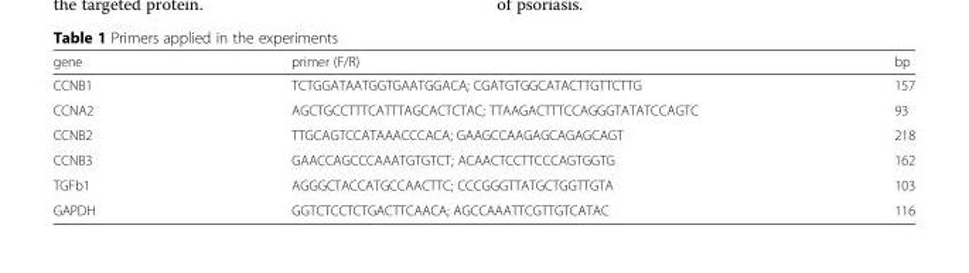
<table><thead><tr><td>gene</td><td>primer (F/R)</td><td>bp</td></tr></thead><tbody><tr><td>CCNB1</td><td>TCTGGATAATGGTGAATGGACA; CGATGTGGCATACTTGTTCTTG</td><td>157</td></tr><tr><td>CCNA2</td><td>AGCTGCCTTTCATTTAGCACTCTAC; TTAAGACTTTCCAGGGTATATCCAGTC</td><td>93</td></tr><tr><td>CCNB2</td><td>TTGCAGTCCATAAACCCACA; GAAGCCAAGAGCAGAGCAGT</td><td>218</td></tr><tr><td>CCNB3</td><td>GAACCAGCCCAAATGTGTCT; ACAACTCCTTCCCAGTGGTG</td><td>162</td></tr><tr><td>TGFb1</td><td>AGGGCTACCATGCCAACTTC; CCCGGGTTATGCTGGTTGTA</td><td>103</td></tr><tr><td>GAPDH</td><td>GGTCTCCTCTGACTTCAACA; AGCCAAATTCGTTGTCATAC</td><td>116</td></tr></tbody></table>